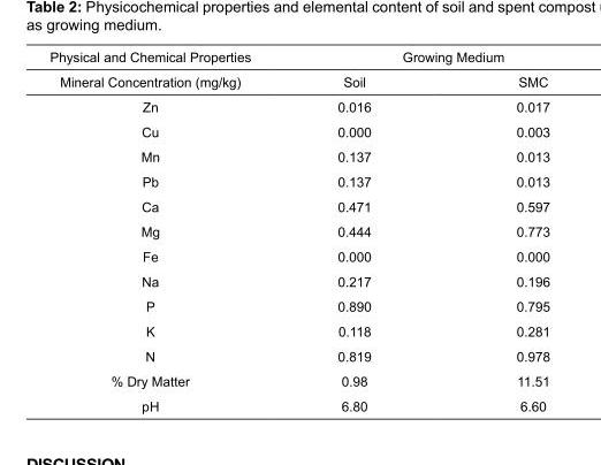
<table><thead><tr><td rowspan="2">Physical and Chemical Properties Mineral Concentration (mg/kg)</td><td colspan="2">Growing Medium</td></tr><tr><td>Soil</td><td>SMC</td></tr></thead><tbody><tr><td>Zn</td><td>0.016</td><td>0.017</td></tr><tr><td>Cu</td><td>0.000</td><td>0.003</td></tr><tr><td>Mn</td><td>0.137</td><td>0.013</td></tr><tr><td>Pb</td><td>0.137</td><td>0.013</td></tr><tr><td>Ca</td><td>0.471</td><td>0.597</td></tr><tr><td>Mg</td><td>0.444</td><td>0.773</td></tr><tr><td>Fe</td><td>0.000</td><td>0.000</td></tr><tr><td>Na</td><td>0.217</td><td>0.196</td></tr><tr><td>P</td><td>0.890</td><td>0.795</td></tr><tr><td>K</td><td>0.118</td><td>0.281</td></tr><tr><td>N</td><td>0.819</td><td>0.978</td></tr><tr><td>% Dry Matter</td><td>0.98</td><td>11.51</td></tr><tr><td>pH</td><td>6.80</td><td>6.60</td></tr></tbody></table>